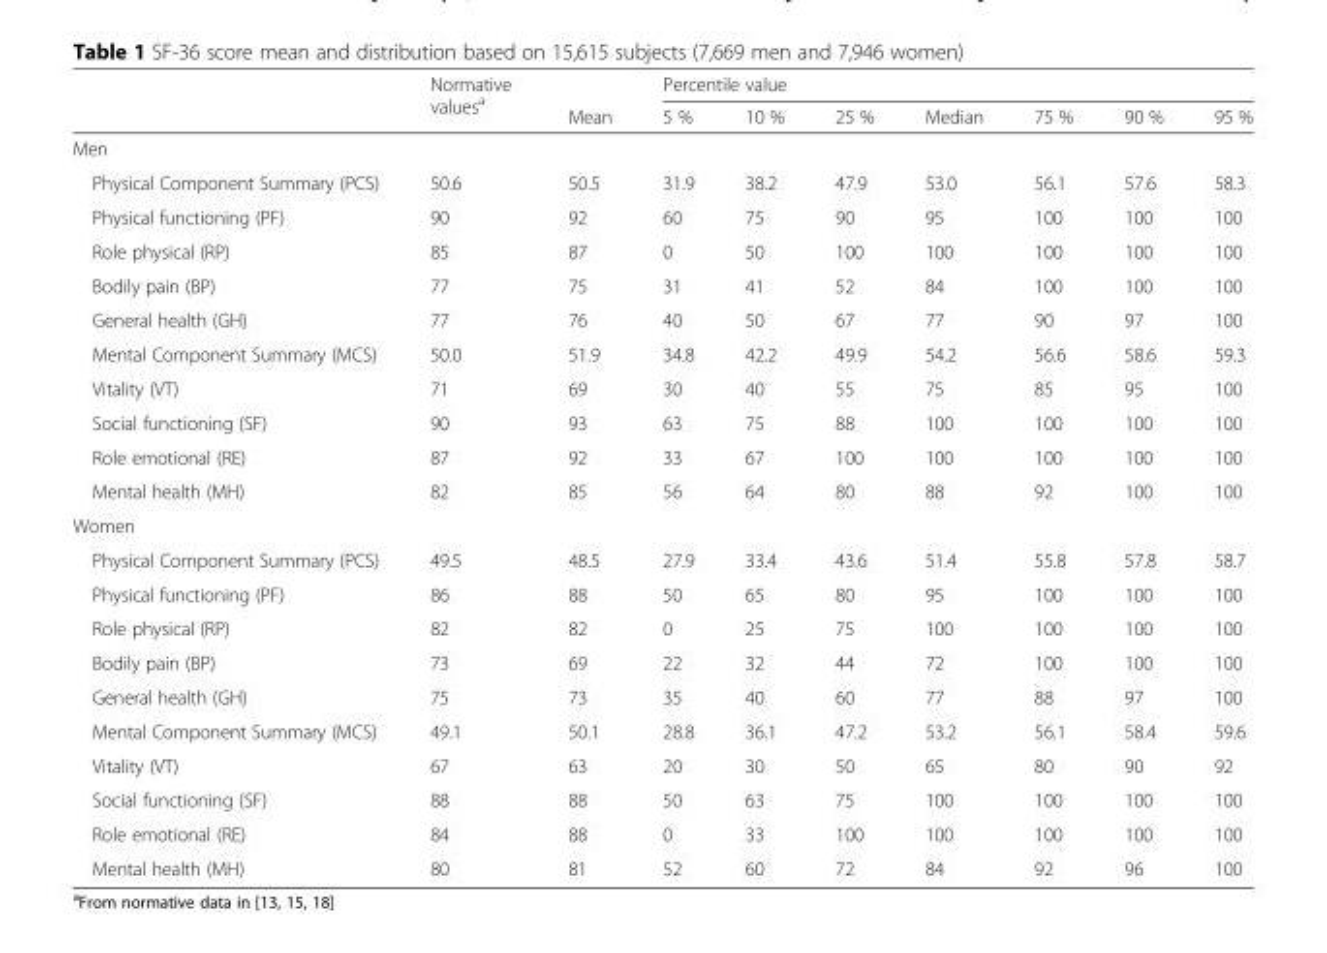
<table><thead><tr><td rowspan="2"></td><td rowspan="2">Normative values<sup>a</sup></td><td rowspan="2">Mean</td><td colspan="7">Percentile value</td></tr><tr><td>5 %</td><td>10 %</td><td>25 %</td><td>Median</td><td>75 %</td><td>90 %</td><td>95 %</td></tr></thead><tbody><tr><td colspan="10">Men</td></tr><tr><td>Physical Component Summary (PCS)</td><td>50.6</td><td>50.5</td><td>31.9</td><td>38.2</td><td>47.9</td><td>53.0</td><td>56.1</td><td>57.6</td><td>58.3</td></tr><tr><td>Physical functioning (PF)</td><td>90</td><td>92</td><td>60</td><td>75</td><td>90</td><td>95</td><td>100</td><td>100</td><td>100</td></tr><tr><td>Role physical (RP)</td><td>85</td><td>87</td><td>0</td><td>50</td><td>100</td><td>100</td><td>100</td><td>100</td><td>100</td></tr><tr><td>Bodily pain (BP)</td><td>77</td><td>75</td><td>31</td><td>41</td><td>52</td><td>84</td><td>100</td><td>100</td><td>100</td></tr><tr><td>General health (GH)</td><td>77</td><td>76</td><td>40</td><td>50</td><td>67</td><td>77</td><td>90</td><td>97</td><td>100</td></tr><tr><td>Mental Component Summary (MCS)</td><td>50.0</td><td>51.9</td><td>34.8</td><td>42.2</td><td>49.9</td><td>54.2</td><td>56.6</td><td>58.6</td><td>59.3</td></tr><tr><td>Vitality (VT)</td><td>71</td><td>69</td><td>30</td><td>40</td><td>55</td><td>75</td><td>85</td><td>95</td><td>100</td></tr><tr><td>Social functioning (SF)</td><td>90</td><td>93</td><td>63</td><td>75</td><td>88</td><td>100</td><td>100</td><td>100</td><td>100</td></tr><tr><td>Role emotional (RE)</td><td>87</td><td>92</td><td>33</td><td>67</td><td>100</td><td>100</td><td>100</td><td>100</td><td>100</td></tr><tr><td>Mental health (MH)</td><td>82</td><td>85</td><td>56</td><td>64</td><td>80</td><td>88</td><td>92</td><td>100</td><td>100</td></tr><tr><td colspan="10">Women</td></tr><tr><td>Physical Component Summary (PCS)</td><td>49.5</td><td>48.5</td><td>27.9</td><td>33.4</td><td>43.6</td><td>51.4</td><td>55.8</td><td>57.8</td><td>58.7</td></tr><tr><td>Physical functioning (PF)</td><td>86</td><td>88</td><td>50</td><td>65</td><td>80</td><td>95</td><td>100</td><td>100</td><td>100</td></tr><tr><td>Role physical (RP)</td><td>82</td><td>82</td><td>0</td><td>25</td><td>75</td><td>100</td><td>100</td><td>100</td><td>100</td></tr><tr><td>Bodily pain (BP)</td><td>73</td><td>69</td><td>22</td><td>32</td><td>44</td><td>72</td><td>100</td><td>100</td><td>100</td></tr><tr><td>General health (GH)</td><td>75</td><td>73</td><td>35</td><td>40</td><td>60</td><td>77</td><td>88</td><td>97</td><td>100</td></tr><tr><td>Mental Component Summary (MCS)</td><td>49.1</td><td>50.1</td><td>28.8</td><td>36.1</td><td>47.2</td><td>53.2</td><td>56.1</td><td>58.4</td><td>59.6</td></tr><tr><td>Vitality (VT)</td><td>67</td><td>63</td><td>20</td><td>30</td><td>50</td><td>65</td><td>80</td><td>90</td><td>92</td></tr><tr><td>Social functioning (SF)</td><td>88</td><td>88</td><td>50</td><td>63</td><td>75</td><td>100</td><td>100</td><td>100</td><td>100</td></tr><tr><td>Role emotional (RE)</td><td>84</td><td>88</td><td>0</td><td>33</td><td>100</td><td>100</td><td>100</td><td>100</td><td>100</td></tr><tr><td>Mental health (MH)</td><td>80</td><td>81</td><td>52</td><td>60</td><td>72</td><td>84</td><td>92</td><td>96</td><td>100</td></tr></tbody></table>